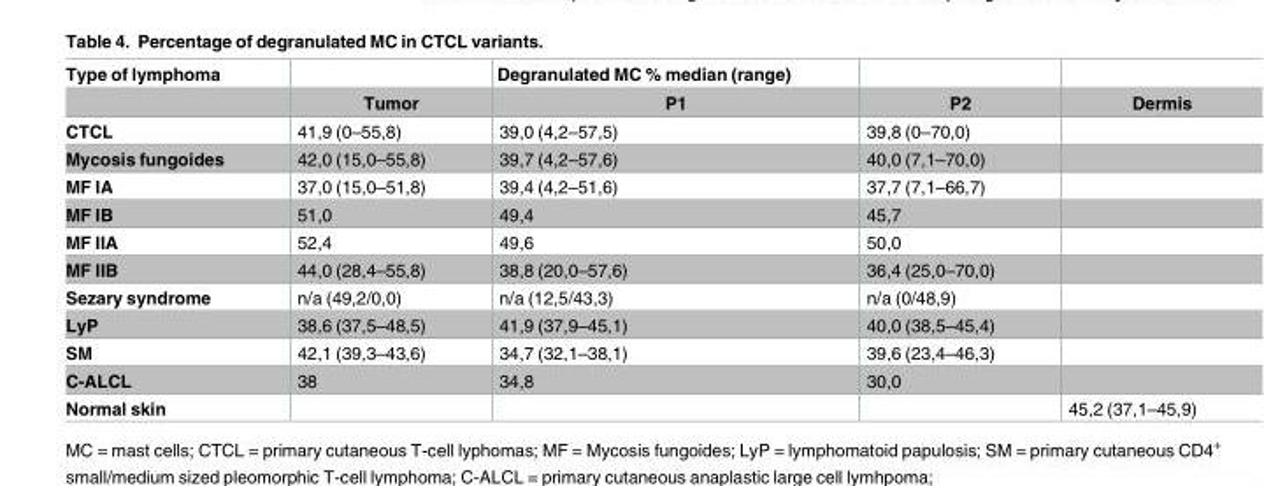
<table><thead><tr><td rowspan="2">Type of lymphoma</td><td rowspan="2">Tumor</td><td rowspan="2">Degranulated MC % median (range) P1</td><td rowspan="2">P2</td><td rowspan="2">Dermis</td></tr><tr></tr></thead><tbody><tr><td>CTCL</td><td>41,9 (0–55,8)</td><td>39,0 (4,2–57,5)</td><td>39,8 (0–70,0)</td><td></td></tr><tr><td>Mycosis fungoides</td><td>42,0 (15,0–55,8)</td><td>39,7 (4,2–57,6)</td><td>40,0 (7,1–70,0)</td><td></td></tr><tr><td>MF IA</td><td>37,0 (15,0–51,8)</td><td>39,4 (4,2–51,6)</td><td>37,7 (7,1–66,7)</td><td></td></tr><tr><td>MF IB</td><td>51,0</td><td>49,4</td><td>45,7</td><td></td></tr><tr><td>MF IIA</td><td>52,4</td><td>49,6</td><td>50,0</td><td></td></tr><tr><td>MF IIB</td><td>44,0 (28,4–55,8)</td><td>38,8 (20,0–57,6)</td><td>36,4 (25,0–70,0)</td><td></td></tr><tr><td>Sezary syndrome</td><td>n/a (49,2/0,0)</td><td>n/a (12,5/43,3)</td><td>n/a (0/48,9)</td><td></td></tr><tr><td>LyP</td><td>38,6 (37,5–48,5)</td><td>41,9 (37,9–45,1)</td><td>40,0 (38,5–45,4)</td><td></td></tr><tr><td>SM</td><td>42,1 (39,3–43,6)</td><td>34,7 (32,1–38,1)</td><td>39,6 (23,4–46,3)</td><td></td></tr><tr><td>C-ALCL</td><td>38</td><td>34,8</td><td>30,0</td><td></td></tr><tr><td>Normal skin</td><td></td><td></td><td></td><td>45,2 (37,1–45,9)</td></tr></tbody></table>